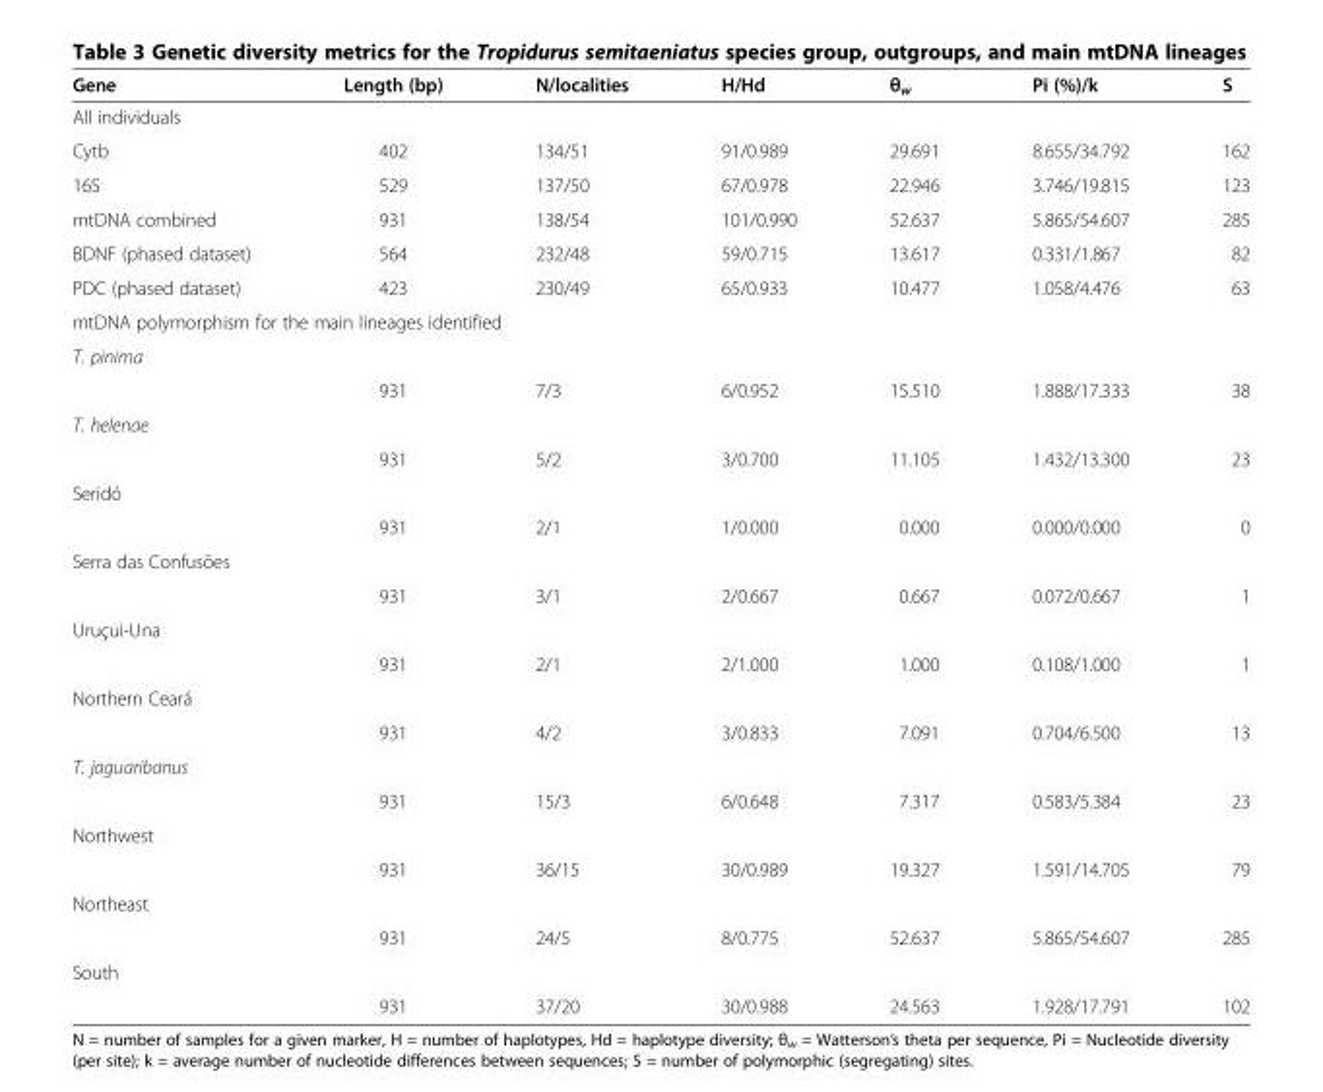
<table><thead><tr><td>Gene</td><td>Length (bp)</td><td>N/localities</td><td>H/Hd</td><td>θ<sub>w</sub></td><td>Pi (%)/k</td><td>S</td></tr></thead><tbody><tr><td colspan="7">All individuals</td></tr><tr><td>Cytb</td><td>402</td><td>134/51</td><td>91/0.989</td><td>29.691</td><td>8.655/34.792</td><td>162</td></tr><tr><td>16S</td><td>529</td><td>137/50</td><td>67/0.978</td><td>22.946</td><td>3.746/19.815</td><td>123</td></tr><tr><td>mtDNA combined</td><td>931</td><td>138/54</td><td>101/0.990</td><td>52.637</td><td>5.865/54.607</td><td>285</td></tr><tr><td>BDNF (phased dataset)</td><td>564</td><td>232/48</td><td>59/0.715</td><td>13.617</td><td>0.331/1.867</td><td>82</td></tr><tr><td>PDC (phased dataset)</td><td>423</td><td>230/49</td><td>65/0.933</td><td>10.477</td><td>1.058/4.476</td><td>63</td></tr><tr><td colspan="7">mtDNA polymorphism for the main lineages identified</td></tr><tr><td colspan="7">T. pinima</td></tr><tr><td></td><td>931</td><td>7/3</td><td>6/0.952</td><td>15.510</td><td>1.888/17.333</td><td>38</td></tr><tr><td colspan="7">T. helenae</td></tr><tr><td></td><td>931</td><td>5/2</td><td>3/0.700</td><td>11.105</td><td>1.432/13.300</td><td>23</td></tr><tr><td colspan="7">Seridó</td></tr><tr><td></td><td>931</td><td>2/1</td><td>1/0.000</td><td>0.000</td><td>0.000/0.000</td><td>0</td></tr><tr><td colspan="7">Serra das Confusões</td></tr><tr><td></td><td>931</td><td>3/1</td><td>2/0.667</td><td>0.667</td><td>0.072/0.667</td><td>1</td></tr><tr><td colspan="7">Uruçui-Una</td></tr><tr><td></td><td>931</td><td>2/1</td><td>2/1.000</td><td>1.000</td><td>0.108/1.000</td><td>1</td></tr><tr><td colspan="7">Northern Ceará</td></tr><tr><td></td><td>931</td><td>4/2</td><td>3/0.833</td><td>7.091</td><td>0.704/6.500</td><td>13</td></tr><tr><td colspan="7">T. jaguaribanus</td></tr><tr><td></td><td>931</td><td>15/3</td><td>6/0.648</td><td>7.317</td><td>0.583/5.384</td><td>23</td></tr><tr><td colspan="7">Northwest</td></tr><tr><td></td><td>931</td><td>36/15</td><td>30/0.989</td><td>19.327</td><td>1.591/14.705</td><td>79</td></tr><tr><td colspan="7">Northeast</td></tr><tr><td></td><td>931</td><td>24/5</td><td>8/0.775</td><td>52.637</td><td>5.865/54.607</td><td>285</td></tr><tr><td colspan="7">South</td></tr><tr><td></td><td>931</td><td>37/20</td><td>30/0.988</td><td>24.563</td><td>1.928/17.791</td><td>102</td></tr></tbody></table>